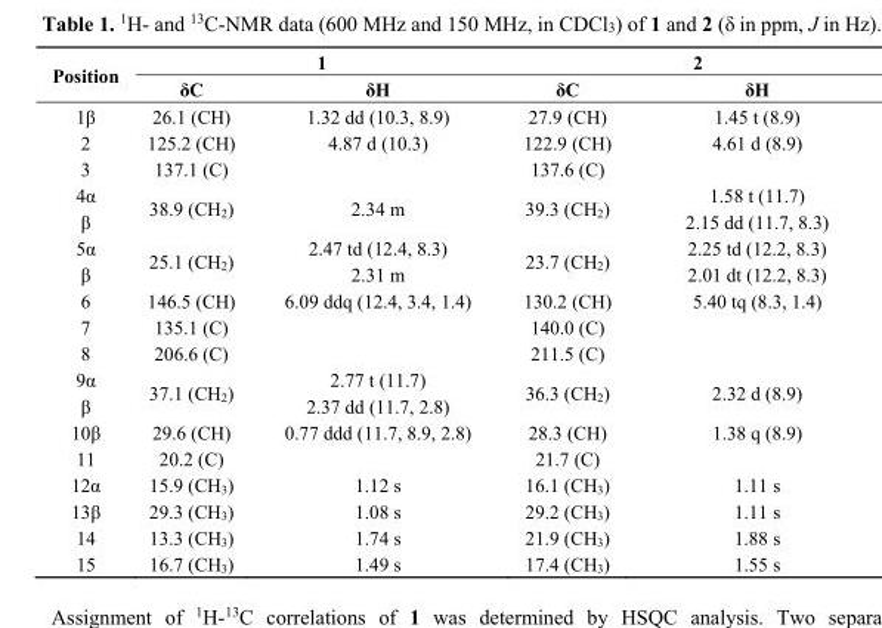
<table><thead><tr><td rowspan="2">Position</td><td colspan="2">1</td><td colspan="2">2</td></tr><tr><td>δC</td><td>δH</td><td>δC</td><td>δH</td></tr></thead><tbody><tr><td>1β</td><td>26.1 (CH)</td><td>1.32 dd (10.3, 8.9)</td><td>27.9 (CH)</td><td>1.45 t (8.9)</td></tr><tr><td>2</td><td>125.2 (CH)</td><td>4.87 d (10.3)</td><td>122.9 (CH)</td><td>4.61 d (8.9)</td></tr><tr><td>3</td><td>137.1 (C)</td><td></td><td>137.6 (C)</td><td></td></tr><tr><td>4α</td><td rowspan="2">38.9 (CH<sub>2</sub>)</td><td rowspan="2">2.34 m</td><td rowspan="2">39.3 (CH<sub>2</sub>)</td><td>1.58 t (11.7)</td></tr><tr><td>β</td><td>2.15 dd (11.7, 8.3)</td></tr><tr><td>5α</td><td rowspan="2">25.1 (CH<sub>2</sub>)</td><td>2.47 td (12.4, 8.3)</td><td rowspan="2">23.7 (CH<sub>2</sub>)</td><td>2.25 td (12.2, 8.3)</td></tr><tr><td>β</td><td>2.31 m</td><td>2.01 dt (12.2, 8.3)</td></tr><tr><td>6</td><td>146.5 (CH)</td><td>6.09 ddq (12.4, 3.4, 1.4)</td><td>130.2 (CH)</td><td>5.40 tq (8.3, 1.4)</td></tr><tr><td>7</td><td>135.1 (C)</td><td></td><td>140.0 (C)</td><td></td></tr><tr><td>8</td><td>206.6 (C)</td><td></td><td>211.5 (C)</td><td></td></tr><tr><td>9α</td><td rowspan="2">37.1 (CH<sub>2</sub>)</td><td>2.77 t (11.7)</td><td rowspan="2">36.3 (CH<sub>2</sub>)</td><td rowspan="2">2.32 d (8.9)</td></tr><tr><td>β</td><td>2.37 dd (11.7, 2.8)</td></tr><tr><td>10β</td><td>29.6 (CH)</td><td>0.77 ddd (11.7, 8.9, 2.8)</td><td>28.3 (CH)</td><td>1.38 q (8.9)</td></tr><tr><td>11</td><td>20.2 (C)</td><td></td><td>21.7 (C)</td><td></td></tr><tr><td>12α</td><td>15.9 (CH<sub>3</sub>)</td><td>1.12 s</td><td>16.1 (CH<sub>3</sub>)</td><td>1.11 s</td></tr><tr><td>13β</td><td>29.3 (CH<sub>3</sub>)</td><td>1.08 s</td><td>29.2 (CH<sub>3</sub>)</td><td>1.11 s</td></tr><tr><td>14</td><td>13.3 (CH<sub>3</sub>)</td><td>1.74 s</td><td>21.9 (CH<sub>3</sub>)</td><td>1.88 s</td></tr><tr><td>15</td><td>16.7 (CH<sub>3</sub>)</td><td>1.49 s</td><td>17.4 (CH<sub>3</sub>)</td><td>1.55 s</td></tr></tbody></table>